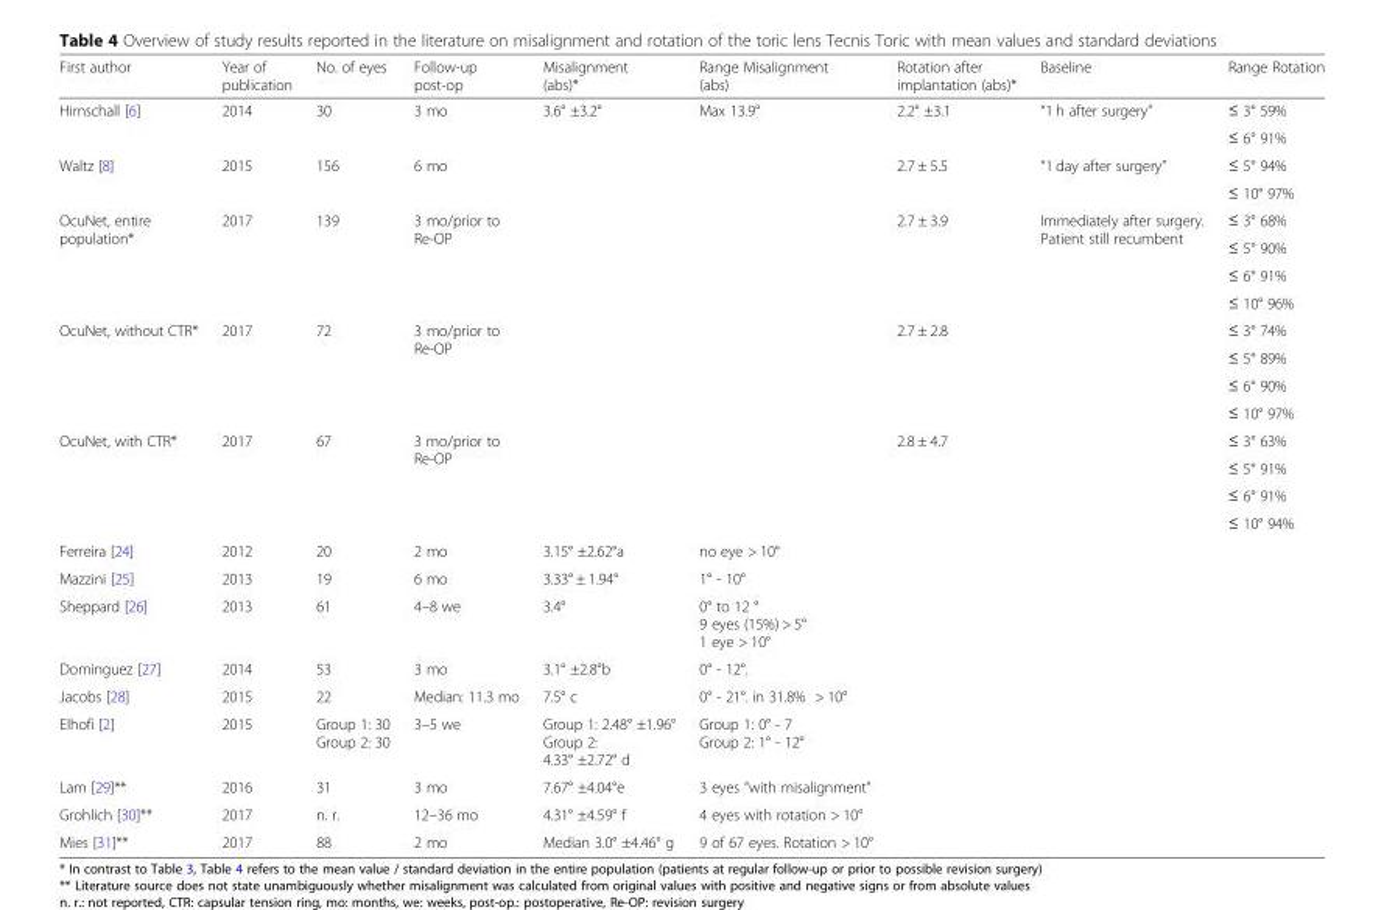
<table><thead><tr><td>First author</td><td>Year of publication</td><td>No. of eyes</td><td>Follow-up post-op</td><td>Misalignment (abs)*</td><td>Range Misalignment (abs)</td><td>Rotation after implantation (abs)*</td><td>Baseline</td><td>Range Rotation</td></tr></thead><tbody><tr><td rowspan="2">Hirnschall [6]</td><td rowspan="2">2014</td><td rowspan="2">30</td><td rowspan="2">3 mo</td><td rowspan="2">3.6° ±3.2°</td><td rowspan="2">Max 13.9°</td><td rowspan="2">2.2° ±3.1</td><td rowspan="2">“1 h after surgery”</td><td>≤ 3° 59%</td></tr><tr><td>≤ 6° 91%</td></tr><tr><td rowspan="2">Waltz [8]</td><td rowspan="2">2015</td><td rowspan="2">156</td><td rowspan="2">6 mo</td><td rowspan="2"></td><td rowspan="2"></td><td rowspan="2">2.7 ± 5.5</td><td rowspan="2">“1 day after surgery”</td><td>≤ 5° 94%</td></tr><tr><td>≤ 10° 97%</td></tr><tr><td rowspan="4">OcuNet, entire population*</td><td rowspan="4">2017</td><td rowspan="4">139</td><td rowspan="4">3 mo/prior to Re-OP</td><td rowspan="4"></td><td rowspan="4"></td><td rowspan="4">2.7 ± 3.9</td><td rowspan="12">Immediately after surgery. Patient still recumbent</td><td>≤ 3° 68%</td></tr><tr><td>≤ 5° 90%</td></tr><tr><td>≤ 6° 91%</td></tr><tr><td>≤ 10° 96%</td></tr><tr><td rowspan="4">OcuNet, without CTR*</td><td rowspan="4">2017</td><td rowspan="4">72</td><td rowspan="4">3 mo/prior to Re-OP</td><td rowspan="4"></td><td rowspan="4"></td><td rowspan="4">2.7 ± 2.8</td><td>≤ 3° 74%</td></tr><tr><td>≤ 5° 89%</td></tr><tr><td>≤ 6° 90%</td></tr><tr><td>≤ 10° 97%</td></tr><tr><td rowspan="4">OcuNet, with CTR*</td><td rowspan="4">2017</td><td rowspan="4">67</td><td rowspan="4">3 mo/prior to Re-OP</td><td rowspan="4"></td><td rowspan="4"></td><td rowspan="4">2.8 ± 4.7</td><td>≤ 3° 63%</td></tr><tr><td>≤ 5° 91%</td></tr><tr><td>≤ 6° 91%</td></tr><tr><td>≤ 10° 94%</td></tr><tr><td>Ferreira [24]</td><td>2012</td><td>20</td><td>2 mo</td><td>3.15° ±2.62°a</td><td>no eye &gt; 10°</td><td></td><td></td><td></td></tr><tr><td>Mazzini [25]</td><td>2013</td><td>19</td><td>6 mo</td><td>3.33° ± 1.94°</td><td>1° - 10°</td><td></td><td></td><td></td></tr><tr><td>Sheppard [26]</td><td>2013</td><td>61</td><td>4–8 we</td><td>3.4°</td><td>0° to 12 ° 9 eyes (15%) &gt; 5° 1 eye &gt; 10°</td><td></td><td></td><td></td></tr><tr><td>Dominguez [27]</td><td>2014</td><td>53</td><td>3 mo</td><td>3.1° ±2.8°b</td><td>0° - 12°.</td><td></td><td></td><td></td></tr><tr><td>Jacobs [28]</td><td>2015</td><td>22</td><td>Median: 11.3 mo</td><td>7.5° c</td><td>0° - 21°. in 31.8% &gt; 10°</td><td></td><td></td><td></td></tr><tr><td>Elhofi [2]</td><td>2015</td><td>Group 1: 30 Group 2: 30</td><td>3–5 we</td><td>Group 1: 2.48° ±1.96° Group 2: 4.33° ±2.72° d</td><td>Group 1: 0° - 7 Group 2: 1° - 12°</td><td></td><td></td><td></td></tr><tr><td>Lam [29]**</td><td>2016</td><td>31</td><td>3 mo</td><td>7.67° ±4.04°e</td><td>3 eyes “with misalignment”</td><td></td><td></td><td></td></tr><tr><td>Grohlich [30]**</td><td>2017</td><td>n. r.</td><td>12–36 mo</td><td>4.31° ±4.59° f</td><td>4 eyes with rotation &gt; 10°</td><td></td><td></td><td></td></tr><tr><td>Mies [31]**</td><td>2017</td><td>88</td><td>2 mo</td><td>Median 3.0° ±4.46° g</td><td>9 of 67 eyes. Rotation &gt; 10°</td><td></td><td></td><td></td></tr></tbody></table>